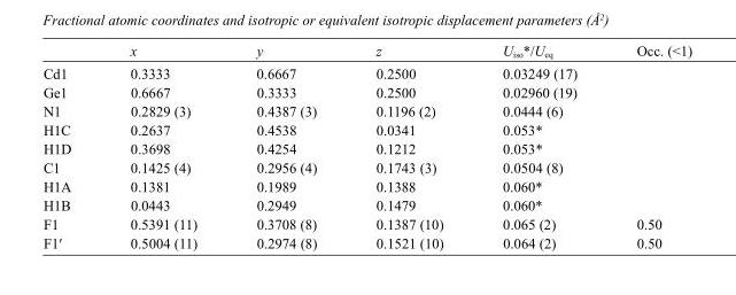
<table><thead><tr><td></td><td>x</td><td>y</td><td>z</td><td>U<sub>iso</sub>*/U<sub>eq</sub></td><td>Occ. (&lt;1)</td></tr></thead><tbody><tr><td>Cd1</td><td>0.3333</td><td>0.6667</td><td>0.2500</td><td>0.03249 (17)</td><td></td></tr><tr><td>Ge1</td><td>0.6667</td><td>0.3333</td><td>0.2500</td><td>0.02960 (19)</td><td></td></tr><tr><td>N1</td><td>0.2829 (3)</td><td>0.4387 (3)</td><td>0.1196 (2)</td><td>0.0444 (6)</td><td></td></tr><tr><td>H1C</td><td>0.2637</td><td>0.4538</td><td>0.0341</td><td>0.053*</td><td></td></tr><tr><td>H1D</td><td>0.3698</td><td>0.4254</td><td>0.1212</td><td>0.053*</td><td></td></tr><tr><td>C1</td><td>0.1425 (4)</td><td>0.2956 (4)</td><td>0.1743 (3)</td><td>0.0504 (8)</td><td></td></tr><tr><td>H1A</td><td>0.1381</td><td>0.1989</td><td>0.1388</td><td>0.060*</td><td></td></tr><tr><td>H1B</td><td>0.0443</td><td>0.2949</td><td>0.1479</td><td>0.060*</td><td></td></tr><tr><td>F1</td><td>0.5391 (11)</td><td>0.3708 (8)</td><td>0.1387 (10)</td><td>0.065 (2)</td><td>0.50</td></tr><tr><td>F1′</td><td>0.5004 (11)</td><td>0.2974 (8)</td><td>0.1521 (10)</td><td>0.064 (2)</td><td>0.50</td></tr></tbody></table>